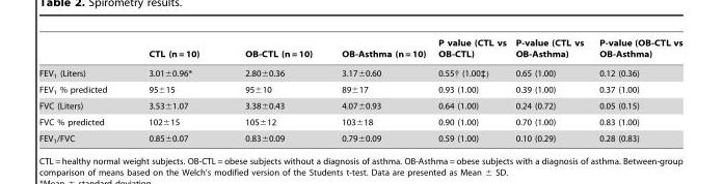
<table><thead><tr><td></td><td>CTL (n = 10)</td><td>OB-CTL (n = 10)</td><td>OB-Asthma (n = 10)</td><td>P value (CTL vs OB-CTL)</td><td>P-value (CTL vs OB-Asthma)</td><td>P-value (OB-CTL vs OB-Asthma)</td></tr></thead><tbody><tr><td>FEV<sub>1</sub> (Liters)</td><td>3.01±0.96*</td><td>2.80±0.36</td><td>3.17±0.60</td><td>0.55† (1.00‡)</td><td>0.65 (1.00)</td><td>0.12 (0.36)</td></tr><tr><td>FEV<sub>1</sub> % predicted</td><td>95±15</td><td>95±10</td><td>89±17</td><td>0.93 (1.00)</td><td>0.39 (1.00)</td><td>0.37 (1.00)</td></tr><tr><td>FVC (Liters)</td><td>3.53±1.07</td><td>3.38±0.43</td><td>4.07±0.93</td><td>0.64 (1.00)</td><td>0.24 (0.72)</td><td>0.05 (0.15)</td></tr><tr><td>FVC % predicted</td><td>102±15</td><td>105±12</td><td>103±18</td><td>0.90 (1.00)</td><td>0.70 (1.00)</td><td>0.83 (1.00)</td></tr><tr><td>FEV<sub>1</sub>/FVC</td><td>0.85±0.07</td><td>0.83±0.09</td><td>0.79±0.09</td><td>0.59 (1.00)</td><td>0.10 (0.29)</td><td>0.28 (0.83)</td></tr></tbody></table>